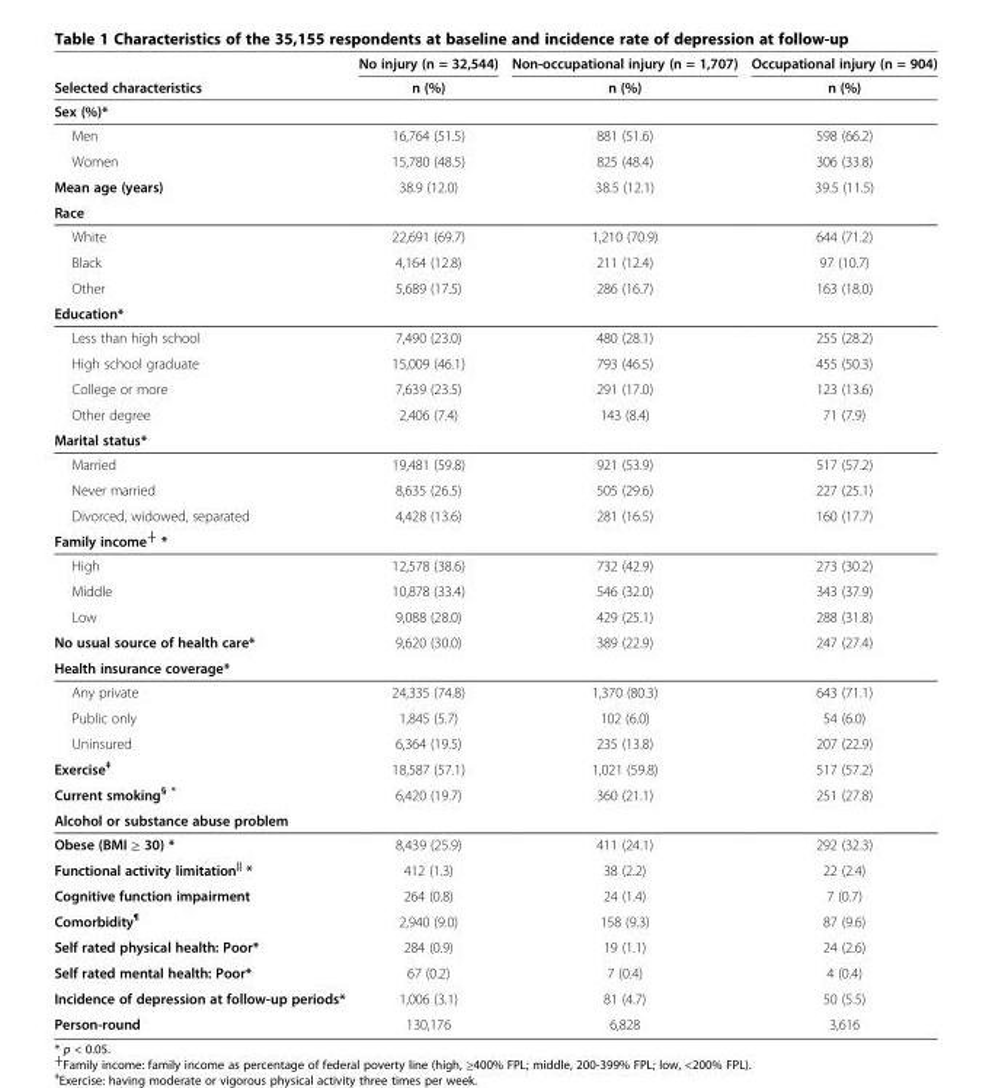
<table><thead><tr><td rowspan="2">Selected characteristics</td><td rowspan="2">No injury (n = 32,544) n (%)</td><td rowspan="2">Non-occupational injury (n = 1,707) n (%)</td><td rowspan="2">Occupational injury (n = 904) n (%)</td></tr><tr></tr></thead><tbody><tr><td colspan="4">Sex (%)*</td></tr><tr><td>Men</td><td>16,764 (51.5)</td><td>881 (51.6)</td><td>598 (66.2)</td></tr><tr><td>Women</td><td>15,780 (48.5)</td><td>825 (48.4)</td><td>306 (33.8)</td></tr><tr><td>Mean age (years)</td><td>38.9 (12.0)</td><td>38.5 (12.1)</td><td>39.5 (11.5)</td></tr><tr><td colspan="4">Race</td></tr><tr><td>White</td><td>22,691 (69.7)</td><td>1,210 (70.9)</td><td>644 (71.2)</td></tr><tr><td>Black</td><td>4,164 (12.8)</td><td>211 (12.4)</td><td>97 (10.7)</td></tr><tr><td>Other</td><td>5,689 (17.5)</td><td>286 (16.7)</td><td>163 (18.0)</td></tr><tr><td colspan="4">Education*</td></tr><tr><td>Less than high school</td><td>7,490 (23.0)</td><td>480 (28.1)</td><td>255 (28.2)</td></tr><tr><td>High school graduate</td><td>15,009 (46.1)</td><td>793 (46.5)</td><td>455 (50.3)</td></tr><tr><td>College or more</td><td>7,639 (23.5)</td><td>291 (17.0)</td><td>123 (13.6)</td></tr><tr><td>Other degree</td><td>2,406 (7.4)</td><td>143 (8.4)</td><td>71 (7.9)</td></tr><tr><td colspan="4">Marital status*</td></tr><tr><td>Married</td><td>19,481 (59.8)</td><td>921 (53.9)</td><td>517 (57.2)</td></tr><tr><td>Never married</td><td>8,635 (26.5)</td><td>505 (29.6)</td><td>227 (25.1)</td></tr><tr><td>Divorced, widowed, separated</td><td>4,428 (13.6)</td><td>281 (16.5)</td><td>160 (17.7)</td></tr><tr><td colspan="4">Family income<sup>┼</sup> *</td></tr><tr><td>High</td><td>12,578 (38.6)</td><td>732 (42.9)</td><td>273 (30.2)</td></tr><tr><td>Middle</td><td>10,878 (33.4)</td><td>546 (32.0)</td><td>343 (37.9)</td></tr><tr><td>Low</td><td>9,088 (28.0)</td><td>429 (25.1)</td><td>288 (31.8)</td></tr><tr><td>No usual source of health care*</td><td>9,620 (30.0)</td><td>389 (22.9)</td><td>247 (27.4)</td></tr><tr><td colspan="4">Health insurance coverage*</td></tr><tr><td>Any private</td><td>24,335 (74.8)</td><td>1,370 (80.3)</td><td>643 (71.1)</td></tr><tr><td>Public only</td><td>1,845 (5.7)</td><td>102 (6.0)</td><td>54 (6.0)</td></tr><tr><td>Uninsured</td><td>6,364 (19.5)</td><td>235 (13.8)</td><td>207 (22.9)</td></tr><tr><td>Exercise<sup>‡</sup></td><td>18,587 (57.1)</td><td>1,021 (59.8)</td><td>517 (57.2)</td></tr><tr><td>Current smoking<sup>§ *</sup></td><td>6,420 (19.7)</td><td>360 (21.1)</td><td>251 (27.8)</td></tr><tr><td colspan="4">Alcohol or substance abuse problem</td></tr><tr><td>Obese (BMI ≥ 30) *</td><td>8,439 (25.9)</td><td>411 (24.1)</td><td>292 (32.3)</td></tr><tr><td>Functional activity limitation<sup>||</sup> *</td><td>412 (1.3)</td><td>38 (2.2)</td><td>22 (2.4)</td></tr><tr><td>Cognitive function impairment</td><td>264 (0.8)</td><td>24 (1.4)</td><td>7 (0.7)</td></tr><tr><td>Comorbidity<sup>¶</sup></td><td>2,940 (9.0)</td><td>158 (9.3)</td><td>87 (9.6)</td></tr><tr><td>Self rated physical health: Poor*</td><td>284 (0.9)</td><td>19 (1.1)</td><td>24 (2.6)</td></tr><tr><td>Self rated mental health: Poor*</td><td>67 (0.2)</td><td>7 (0.4)</td><td>4 (0.4)</td></tr><tr><td>Incidence of depression at follow-up periods*</td><td>1,006 (3.1)</td><td>81 (4.7)</td><td>50 (5.5)</td></tr><tr><td>Person-round</td><td>130,176</td><td>6,828</td><td>3,616</td></tr></tbody></table>